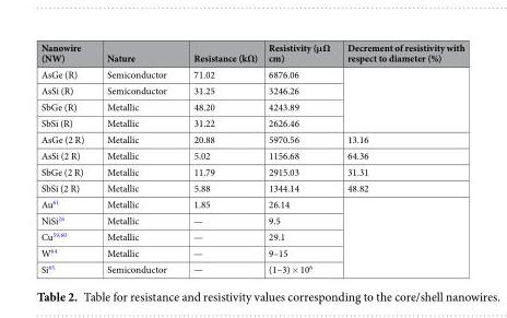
<table><thead><tr><td>Nanowire (NW)</td><td>Nature</td><td>Resistance (kΩ)</td><td>Resistivity (μΩ cm)</td><td>Decrement of resistivity with respect to diameter (%)</td></tr></thead><tbody><tr><td>AsGe (R)</td><td>Semiconductor</td><td>71.02</td><td>6876.06</td><td rowspan="4"></td></tr><tr><td>AsSi (R)</td><td>Semiconductor</td><td>31.25</td><td>3246.26</td></tr><tr><td>SbGe (R)</td><td>Metallic</td><td>48.20</td><td>4243.89</td></tr><tr><td>SbSi (R)</td><td>Metallic</td><td>31.22</td><td>2626.46</td></tr><tr><td>AsGe (2 R)</td><td>Metallic</td><td>20.88</td><td>5970.56</td><td>13.16</td></tr><tr><td>AsSi (2 R)</td><td>Metallic</td><td>5.02</td><td>1156.68</td><td>64.36</td></tr><tr><td>SbGe (2 R)</td><td>Metallic</td><td>11.79</td><td>2915.03</td><td>31.31</td></tr><tr><td>SbSi (2 R)</td><td>Metallic</td><td>5.88</td><td>1344.14</td><td>48.82</td></tr><tr><td>Au<sup>61</sup></td><td>Metallic</td><td>1.85</td><td>26.14</td><td rowspan="5"></td></tr><tr><td>NiSi<sup>26</sup></td><td>Metallic</td><td>—</td><td>9.5</td></tr><tr><td>Cu<sup>59,60</sup></td><td>Metallic</td><td>—</td><td>29.1</td></tr><tr><td>W<sup>64</sup></td><td>Metallic</td><td>—</td><td>9–15</td></tr><tr><td>Si<sup>65</sup></td><td>Semiconductor</td><td>—</td><td>(1–3) × 10<sup>6</sup></td></tr></tbody></table>